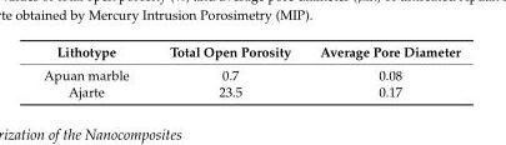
<table><thead><tr><td>Lithotype</td><td>Total Open Porosity</td><td>Average Pore Diameter</td></tr></thead><tbody><tr><td>Apuan marble</td><td>0.7</td><td>0.08</td></tr><tr><td>Ajarte</td><td>23.5</td><td>0.17</td></tr></tbody></table>